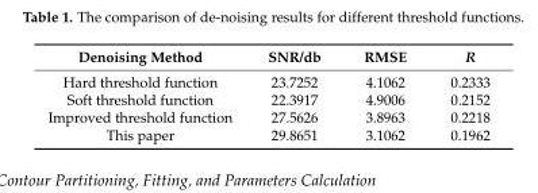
<table><thead><tr><td>Denoising Method</td><td>SNR/db</td><td>RMSE</td><td>R</td></tr></thead><tbody><tr><td>Hard threshold function</td><td>23.7252</td><td>4.1062</td><td>0.2333</td></tr><tr><td>Soft threshold function</td><td>22.3917</td><td>4.9006</td><td>0.2152</td></tr><tr><td>Improved threshold function</td><td>27.5626</td><td>3.8963</td><td>0.2218</td></tr><tr><td>This paper</td><td>29.8651</td><td>3.1062</td><td>0.1962</td></tr></tbody></table>